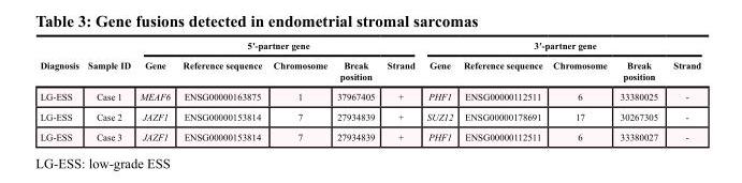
<table><thead><tr><td rowspan="2">Diagnosis</td><td rowspan="2">Sample ID</td><td colspan="5">5′-partner gene</td><td colspan="5">3′-partner gene</td></tr><tr><td>Gene</td><td>Reference sequence</td><td>Chromosome</td><td>Break position</td><td>Strand</td><td>Gene</td><td>Reference sequence</td><td>Chromosome</td><td>Break position</td><td>Strand</td></tr></thead><tbody><tr><td>LG-ESS</td><td>Case 1</td><td>MEAF6</td><td>ENSG00000163875</td><td>1</td><td>37967405</td><td>+</td><td>PHF1</td><td>ENSG00000112511</td><td>6</td><td>33380025</td><td>-</td></tr><tr><td>LG-ESS</td><td>Case 2</td><td>JAZF1</td><td>ENSG00000153814</td><td>7</td><td>27934839</td><td>+</td><td>SUZ12</td><td>ENSG00000178691</td><td>17</td><td>30267305</td><td>-</td></tr><tr><td>LG-ESS</td><td>Case 3</td><td>JAZF1</td><td>ENSG00000153814</td><td>7</td><td>27934839</td><td>+</td><td>PHF1</td><td>ENSG00000112511</td><td>6</td><td>33380027</td><td>-</td></tr></tbody></table>